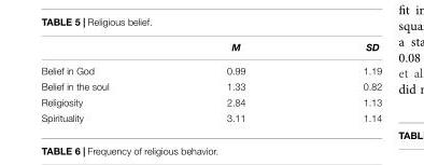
<table><thead><tr><td></td><td>M</td><td>SD</td></tr></thead><tbody><tr><td>Belief in God</td><td>0.99</td><td>1.19</td></tr><tr><td>Belief in the soul</td><td>1.33</td><td>0.82</td></tr><tr><td>Religiosity</td><td>2.84</td><td>1.13</td></tr><tr><td>Spirituality</td><td>3.11</td><td>1.14</td></tr></tbody></table>